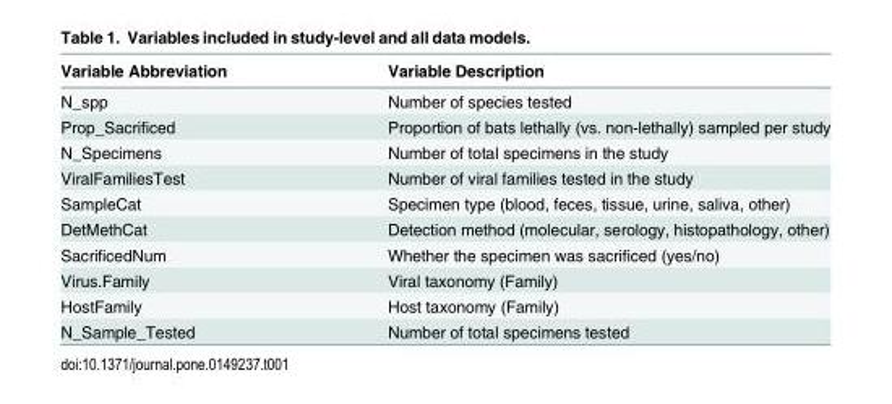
<table><thead><tr><td>Variable Abbreviation</td><td>Variable Description</td></tr></thead><tbody><tr><td>N_spp</td><td>Number of species tested</td></tr><tr><td>Prop_Sacrificed</td><td>Proportion of bats lethally (vs. non-lethally) sampled per study</td></tr><tr><td>N_Specimens</td><td>Number of total specimens in the study</td></tr><tr><td>ViralFamiliesTest</td><td>Number of viral families tested in the study</td></tr><tr><td>SampleCat</td><td>Specimen type (blood, feces, tissue, urine, saliva, other)</td></tr><tr><td>DetMethCat</td><td>Detection method (molecular, serology, histopathology, other)</td></tr><tr><td>SacrificedNum</td><td>Whether the specimen was sacrificed (yes/no)</td></tr><tr><td>Virus.Family</td><td>Viral taxonomy (Family)</td></tr><tr><td>HostFamily</td><td>Host taxonomy (Family)</td></tr><tr><td>N_Sample_Tested</td><td>Number of total specimens tested</td></tr></tbody></table>